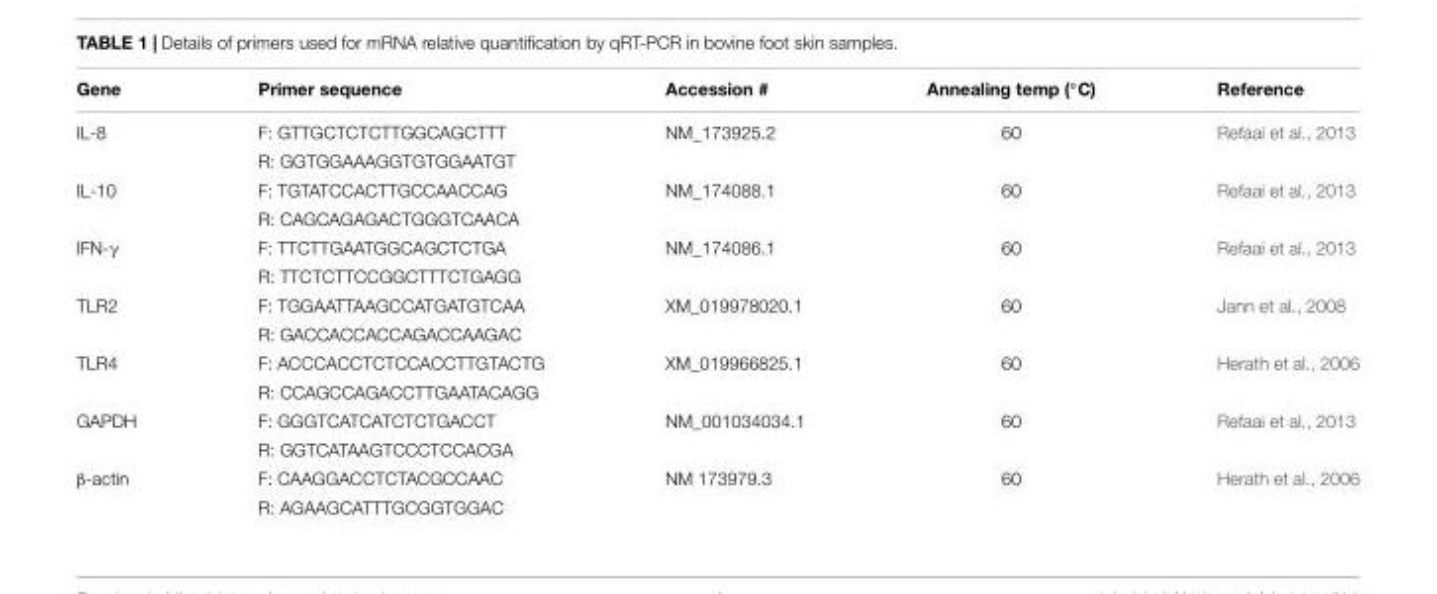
<table><thead><tr><td>Gene</td><td>Primer sequence</td><td>Accession #</td><td>Annealing temp (◦C)</td><td>Reference</td></tr></thead><tbody><tr><td rowspan="2">IL-8</td><td>F: GTTGCTCTCTTGGCAGCTTT</td><td>NM_173925.2</td><td>60</td><td>Refaai et al., 2013</td></tr><tr><td>R: GGTGGAAAGGTGTGGAATGT</td><td></td><td></td><td></td></tr><tr><td rowspan="2">IL-10</td><td>F: TGTATCCACTTGCCAACCAG</td><td>NM_174088.1</td><td>60</td><td>Refaai et al., 2013</td></tr><tr><td>R: CAGCAGAGACTGGGTCAACA</td><td></td><td></td><td></td></tr><tr><td rowspan="2">IFN-γ</td><td>F: TTCTTGAATGGCAGCTCTGA</td><td>NM_174086.1</td><td>60</td><td>Refaai et al., 2013</td></tr><tr><td>R: TTCTCTTCCGGCTTTCTGAGG</td><td></td><td></td><td></td></tr><tr><td rowspan="2">TLR2</td><td>F: TGGAATTAAGCCATGATGTCAA</td><td>XM_019978020.1</td><td>60</td><td>Jann et al., 2008</td></tr><tr><td>R: GACCACCACCAGACCAAGAC</td><td></td><td></td><td></td></tr><tr><td rowspan="2">TLR4</td><td>F: ACCCACCTCTCCACCTTGTACTG</td><td>XM_019966825.1</td><td>60</td><td>Herath et al., 2006</td></tr><tr><td>R: CCAGCCAGACCTTGAATACAGG</td><td></td><td></td><td></td></tr><tr><td rowspan="2">GAPDH</td><td>F: GGGTCATCATCTCTGACCT</td><td>NM_001034034.1</td><td>60</td><td>Refaai et al., 2013</td></tr><tr><td>R: GGTCATAAGTCCCTCCACGA</td><td></td><td></td><td></td></tr><tr><td rowspan="2">β-actin</td><td>F: CAAGGACCTCTACGCCAAC</td><td>NM 173979.3</td><td>60</td><td>Herath et al., 2006</td></tr><tr><td>R: AGAAGCATTTGCGGTGGAC</td><td></td><td></td><td></td></tr></tbody></table>